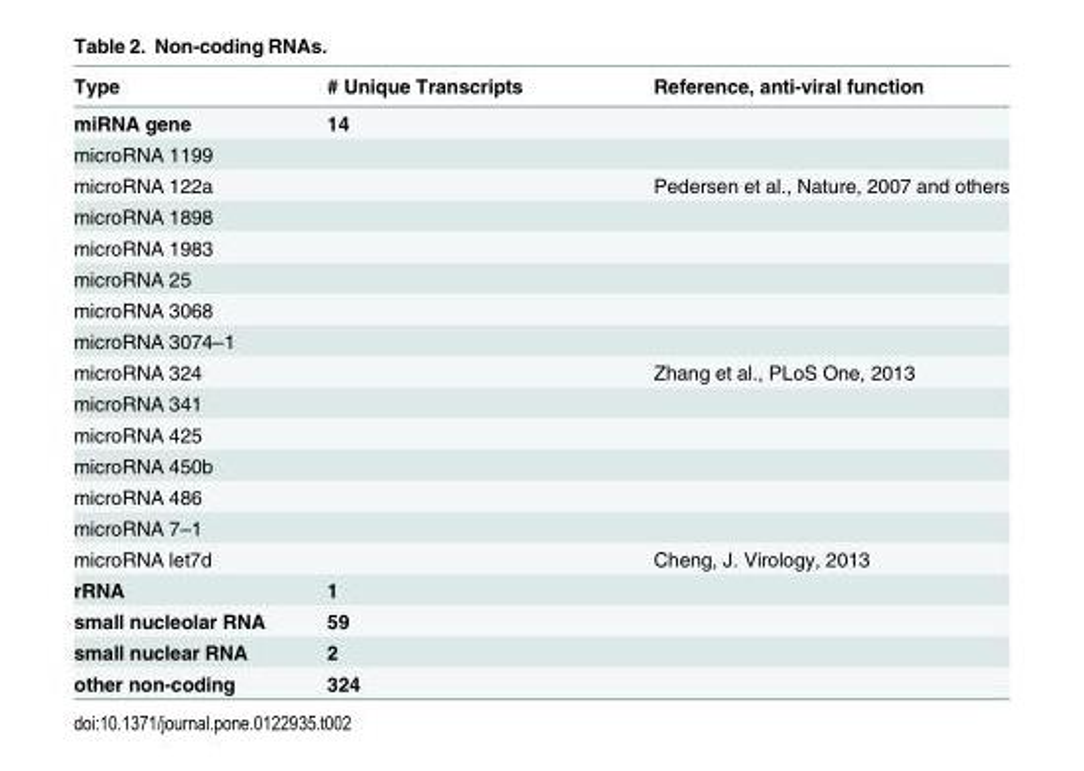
<table><thead><tr><td>Type</td><td># Unique Transcripts</td><td>Reference, anti-viral function</td></tr></thead><tbody><tr><td>miRNA gene</td><td>14</td><td></td></tr><tr><td colspan="3">microRNA 1199</td></tr><tr><td>microRNA 122a</td><td></td><td>Pedersen et al., Nature, 2007 and others</td></tr><tr><td colspan="3">microRNA 1898</td></tr><tr><td colspan="3">microRNA 1983</td></tr><tr><td colspan="3">microRNA 25</td></tr><tr><td colspan="3">microRNA 3068</td></tr><tr><td colspan="3">microRNA 3074–1</td></tr><tr><td>microRNA 324</td><td></td><td>Zhang et al., PLoS One, 2013</td></tr><tr><td colspan="3">microRNA 341</td></tr><tr><td colspan="3">microRNA 425</td></tr><tr><td colspan="3">microRNA 450b</td></tr><tr><td colspan="3">microRNA 486</td></tr><tr><td colspan="3">microRNA 7–1</td></tr><tr><td>microRNA let7d</td><td></td><td>Cheng, J. Virology, 2013</td></tr><tr><td>rRNA</td><td>1</td><td></td></tr><tr><td>small nucleolar RNA</td><td>59</td><td></td></tr><tr><td>small nuclear RNA</td><td>2</td><td></td></tr><tr><td>other non-coding</td><td>324</td><td></td></tr></tbody></table>